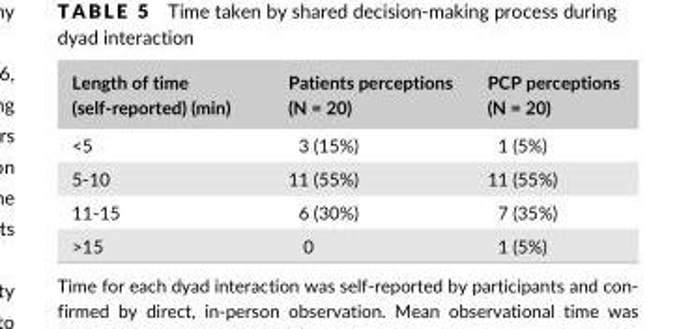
<table><thead><tr><td>Length of time (self- reported) (min)</td><td>Patients perceptions (N = 20)</td><td>PCP perceptions (N = 20)</td></tr></thead><tbody><tr><td>&lt;5</td><td>3 (15%)</td><td>1 (5%)</td></tr><tr><td>5- 10</td><td>11 (55%)</td><td>11 (55%)</td></tr><tr><td>11- 15</td><td>6 (30%)</td><td>7 (35%)</td></tr><tr><td>&gt;15</td><td>0</td><td>1 (5%)</td></tr></tbody></table>